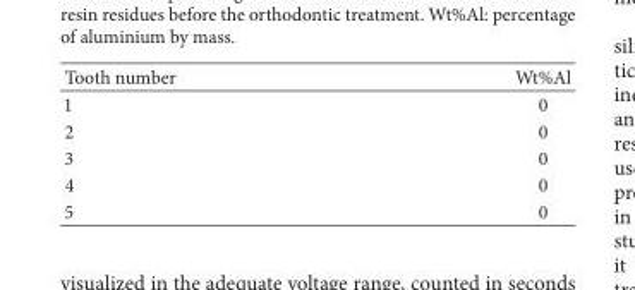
<table><thead><tr><td>Tooth number</td><td>Wt%Al</td></tr></thead><tbody><tr><td>1</td><td>0</td></tr><tr><td>2</td><td>0</td></tr><tr><td>3</td><td>0</td></tr><tr><td>4</td><td>0</td></tr><tr><td>5</td><td>0</td></tr></tbody></table>